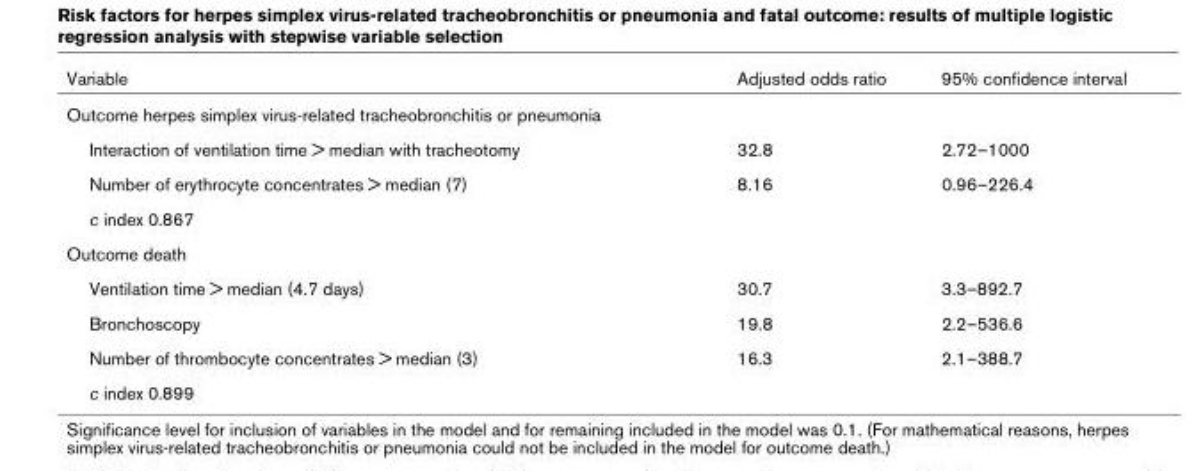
<table><thead><tr><td>Variable</td><td>Adjusted odds ratio</td><td>95% confidence interval</td></tr></thead><tbody><tr><td colspan="3">Outcome herpes simplex virus-related tracheobronchitis or pneumonia</td></tr><tr><td>Interaction of ventilation time &gt; median with tracheotomy</td><td>32.8</td><td>2.72–1000</td></tr><tr><td>Number of erythrocyte concentrates &gt; median (7)</td><td>8.16</td><td>0.96–226.4</td></tr><tr><td colspan="3">c index 0.867</td></tr><tr><td colspan="3">Outcome death</td></tr><tr><td>Ventilation time &gt; median (4.7 days)</td><td>30.7</td><td>3.3–892.7</td></tr><tr><td>Bronchoscopy</td><td>19.8</td><td>2.2–536.6</td></tr><tr><td>Number of thrombocyte concentrates &gt; median (3)</td><td>16.3</td><td>2.1–388.7</td></tr><tr><td>c index 0.899</td><td></td><td></td></tr></tbody></table>